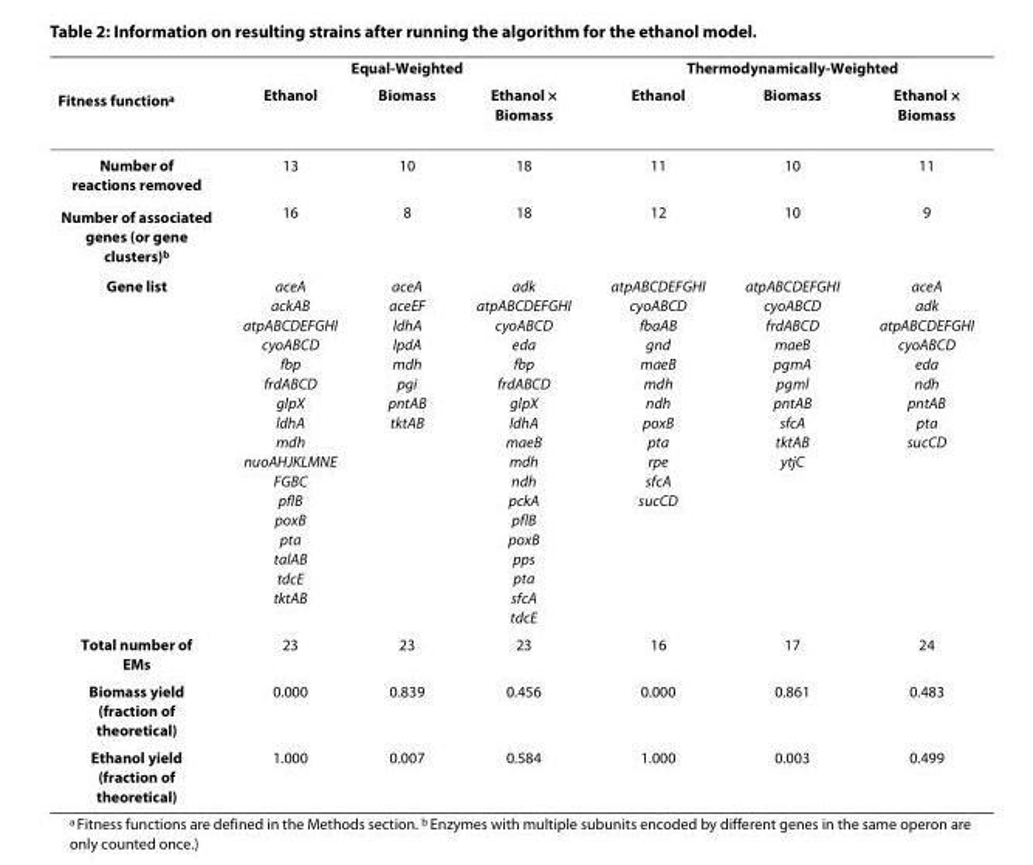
<table><thead><tr><td rowspan="2">Fitness function<sup>a</sup></td><td colspan="3">Equal-Weighted</td><td colspan="3">Thermodynamically-Weighted</td></tr><tr><td>Ethanol</td><td>Biomass</td><td>Ethanol × Biomass</td><td>Ethanol</td><td>Biomass</td><td>Ethanol × Biomass</td></tr></thead><tbody><tr><td>Number of reactions removed</td><td>13</td><td>10</td><td>18</td><td>11</td><td>10</td><td>11</td></tr><tr><td>Number of associated genes (or gene clusters)<sup>b</sup></td><td>16</td><td>8</td><td>18</td><td>12</td><td>10</td><td>9</td></tr><tr><td>Gene list</td><td>aceA ackAB atpABCDEFGHI cyoABCD fbp frdABCD glpX ldhA mdh nuoAHJKLMNE FGBC pflB poxB pta talAB tdcE tktAB</td><td>aceA aceEF ldhA lpdA mdh pgi pntAB tktAB</td><td>adk atpABCDEFGHI cyoABCD eda fbp frdABCD glpX ldhA maeB mdh ndh pckA pflB poxB pps pta sfcA tdcE</td><td>atpABCDEFGHI cyoABCD fbaAB gnd maeB mdh ndh poxB pta rpe sfcA sucCD</td><td>atpABCDEFGHI cyoABCD frdABCD maeB pgmA pgml pntAB sfcA tktAB ytjC</td><td>aceA adk atpABCDEFGHI cyoABCD eda ndh pntAB pta sucCD</td></tr><tr><td>Total number of EMs</td><td>23</td><td>23</td><td>23</td><td>16</td><td>17</td><td>24</td></tr><tr><td>Biomass yield (fraction of theoretical)</td><td>0.000</td><td>0.839</td><td>0.456</td><td>0.000</td><td>0.861</td><td>0.483</td></tr><tr><td>Ethanol yield (fraction of theoretical)</td><td>1.000</td><td>0.007</td><td>0.584</td><td>1.000</td><td>0.003</td><td>0.499</td></tr></tbody></table>